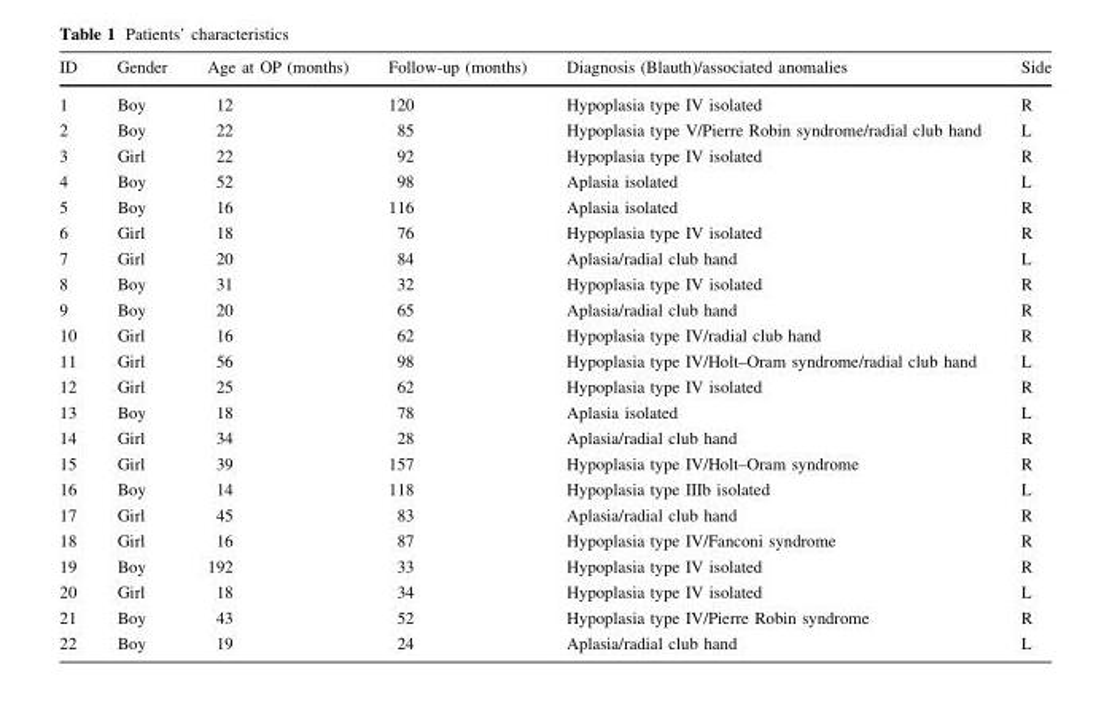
<table><thead><tr><td>ID</td><td>Gender</td><td>Age at OP (months)</td><td>Follow-up (months)</td><td>Diagnosis (Blauth)/associated anomalies</td><td>Side</td></tr></thead><tbody><tr><td>1</td><td>Boy</td><td>12</td><td>120</td><td>Hypoplasia type IV isolated</td><td>R</td></tr><tr><td>2</td><td>Boy</td><td>22</td><td>85</td><td>Hypoplasia type V/Pierre Robin syndrome/radial club hand</td><td>L</td></tr><tr><td>3</td><td>Girl</td><td>22</td><td>92</td><td>Hypoplasia type IV isolated</td><td>R</td></tr><tr><td>4</td><td>Boy</td><td>52</td><td>98</td><td>Aplasia isolated</td><td>L</td></tr><tr><td>5</td><td>Boy</td><td>16</td><td>116</td><td>Aplasia isolated</td><td>R</td></tr><tr><td>6</td><td>Girl</td><td>18</td><td>76</td><td>Hypoplasia type IV isolated</td><td>R</td></tr><tr><td>7</td><td>Girl</td><td>20</td><td>84</td><td>Aplasia/radial club hand</td><td>L</td></tr><tr><td>8</td><td>Boy</td><td>31</td><td>32</td><td>Hypoplasia type IV isolated</td><td>R</td></tr><tr><td>9</td><td>Boy</td><td>20</td><td>65</td><td>Aplasia/radial club hand</td><td>R</td></tr><tr><td>10</td><td>Girl</td><td>16</td><td>62</td><td>Hypoplasia type IV/radial club hand</td><td>R</td></tr><tr><td>11</td><td>Girl</td><td>56</td><td>98</td><td>Hypoplasia type IV/Holt–Oram syndrome/radial club hand</td><td>L</td></tr><tr><td>12</td><td>Girl</td><td>25</td><td>62</td><td>Hypoplasia type IV isolated</td><td>R</td></tr><tr><td>13</td><td>Boy</td><td>18</td><td>78</td><td>Aplasia isolated</td><td>L</td></tr><tr><td>14</td><td>Girl</td><td>34</td><td>28</td><td>Aplasia/radial club hand</td><td>R</td></tr><tr><td>15</td><td>Girl</td><td>39</td><td>157</td><td>Hypoplasia type IV/Holt–Oram syndrome</td><td>R</td></tr><tr><td>16</td><td>Boy</td><td>14</td><td>118</td><td>Hypoplasia type IIIb isolated</td><td>L</td></tr><tr><td>17</td><td>Girl</td><td>45</td><td>83</td><td>Aplasia/radial club hand</td><td>R</td></tr><tr><td>18</td><td>Girl</td><td>16</td><td>87</td><td>Hypoplasia type IV/Fanconi syndrome</td><td>R</td></tr><tr><td>19</td><td>Boy</td><td>192</td><td>33</td><td>Hypoplasia type IV isolated</td><td>R</td></tr><tr><td>20</td><td>Girl</td><td>18</td><td>34</td><td>Hypoplasia type IV isolated</td><td>L</td></tr><tr><td>21</td><td>Boy</td><td>43</td><td>52</td><td>Hypoplasia type IV/Pierre Robin syndrome</td><td>R</td></tr><tr><td>22</td><td>Boy</td><td>19</td><td>24</td><td>Aplasia/radial club hand</td><td>L</td></tr></tbody></table>